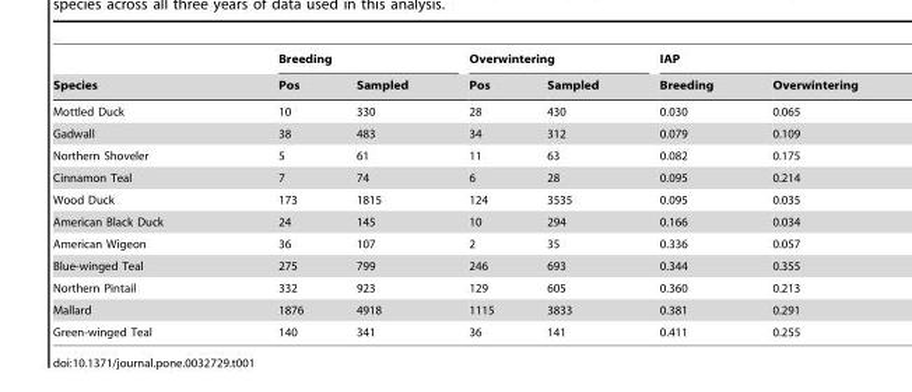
<table><thead><tr><td rowspan="2">Species</td><td colspan="2">Breeding</td><td colspan="2">Overwintering</td><td colspan="2">IAP</td></tr><tr><td>Pos</td><td>Sampled</td><td>Pos</td><td>Sampled</td><td>Breeding</td><td>Overwintering</td></tr></thead><tbody><tr><td>Mottled Duck</td><td>10</td><td>330</td><td>28</td><td>430</td><td>0.030</td><td>0.065</td></tr><tr><td>Gadwall</td><td>38</td><td>483</td><td>34</td><td>312</td><td>0.079</td><td>0.109</td></tr><tr><td>Northern Shoveler</td><td>5</td><td>61</td><td>11</td><td>63</td><td>0.082</td><td>0.175</td></tr><tr><td>Cinnamon Teal</td><td>7</td><td>74</td><td>6</td><td>28</td><td>0.095</td><td>0.214</td></tr><tr><td>Wood Duck</td><td>173</td><td>1815</td><td>124</td><td>3535</td><td>0.095</td><td>0.035</td></tr><tr><td>American Black Duck</td><td>24</td><td>145</td><td>10</td><td>294</td><td>0.166</td><td>0.034</td></tr><tr><td>American Wigeon</td><td>36</td><td>107</td><td>2</td><td>35</td><td>0.336</td><td>0.057</td></tr><tr><td>Blue-winged Teal</td><td>275</td><td>799</td><td>246</td><td>693</td><td>0.344</td><td>0.355</td></tr><tr><td>Northern Pintail</td><td>332</td><td>923</td><td>129</td><td>605</td><td>0.360</td><td>0.213</td></tr><tr><td>Mallard</td><td>1876</td><td>4918</td><td>1115</td><td>3833</td><td>0.381</td><td>0.291</td></tr><tr><td>Green-winged Teal</td><td>140</td><td>341</td><td>36</td><td>141</td><td>0.411</td><td>0.255</td></tr></tbody></table>